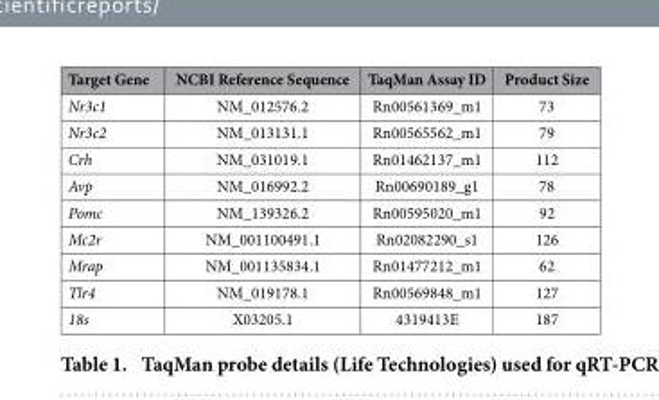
<table><thead><tr><td>Target Gene</td><td>NCBI Reference Sequence</td><td>TaqMan Assay ID</td><td>Product Size</td></tr></thead><tbody><tr><td>Nr3c1</td><td>NM_012576.2</td><td>Rn00561369_m1</td><td>73</td></tr><tr><td>Nr3c2</td><td>NM_013131.1</td><td>Rn00565562_m1</td><td>79</td></tr><tr><td>Crh</td><td>NM_031019.1</td><td>Rn01462137_m1</td><td>112</td></tr><tr><td>Avp</td><td>NM_016992.2</td><td>Rn00690189_g1</td><td>78</td></tr><tr><td>Pomc</td><td>NM_139326.2</td><td>Rn00595020_m1</td><td>92</td></tr><tr><td>Mc2r</td><td>NM_001100491.1</td><td>Rn02082290_s1</td><td>126</td></tr><tr><td>Mrap</td><td>NM_001135834.1</td><td>Rn01477212_m1</td><td>62</td></tr><tr><td>Tlr4</td><td>NM_019178.1</td><td>Rn00569848_m1</td><td>127</td></tr><tr><td>18s</td><td>X03205.1</td><td>4319413E</td><td>187</td></tr></tbody></table>